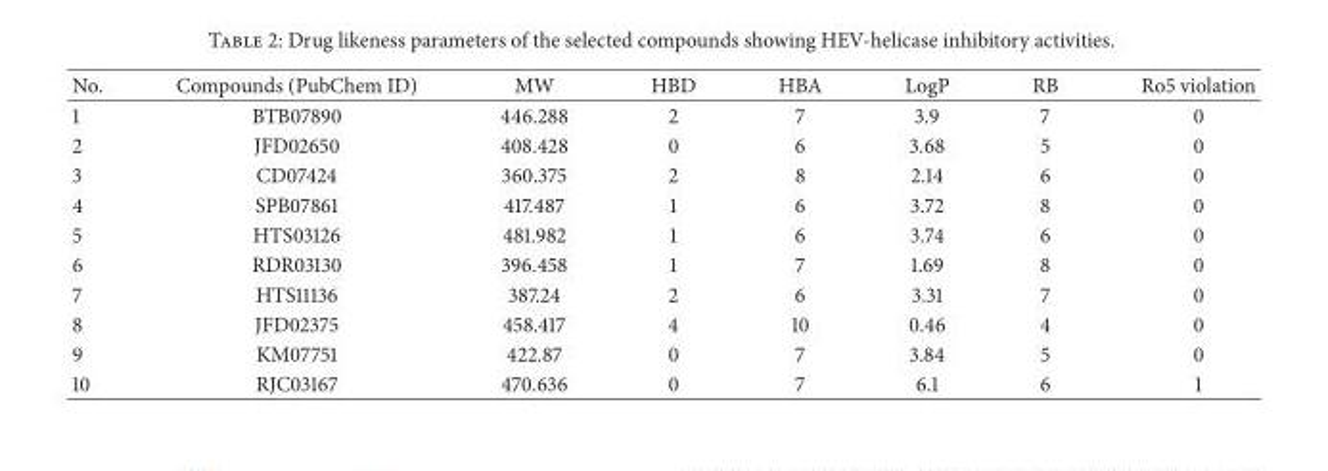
<table><thead><tr><td>No.</td><td>Compounds (PubChem ID)</td><td>MW</td><td>HBD</td><td>HBA</td><td>LogP</td><td>RB</td><td>Ro5 violation</td></tr></thead><tbody><tr><td>1</td><td>BTB07890</td><td>446.288</td><td>2</td><td>7</td><td>3.9</td><td>7</td><td>0</td></tr><tr><td>2</td><td>JFD02650</td><td>408.428</td><td>0</td><td>6</td><td>3.68</td><td>5</td><td>0</td></tr><tr><td>3</td><td>CD07424</td><td>360.375</td><td>2</td><td>8</td><td>2.14</td><td>6</td><td>0</td></tr><tr><td>4</td><td>SPB07861</td><td>417.487</td><td>1</td><td>6</td><td>3.72</td><td>8</td><td>0</td></tr><tr><td>5</td><td>HTS03126</td><td>481.982</td><td>1</td><td>6</td><td>3.74</td><td>6</td><td>0</td></tr><tr><td>6</td><td>RDR03130</td><td>396.458</td><td>1</td><td>7</td><td>1.69</td><td>8</td><td>0</td></tr><tr><td>7</td><td>HTS11136</td><td>387.24</td><td>2</td><td>6</td><td>3.31</td><td>7</td><td>0</td></tr><tr><td>8</td><td>JFD02375</td><td>458.417</td><td>4</td><td>10</td><td>0.46</td><td>4</td><td>0</td></tr><tr><td>9</td><td>KM07751</td><td>422.87</td><td>0</td><td>7</td><td>3.84</td><td>5</td><td>0</td></tr><tr><td>10</td><td>RJC03167</td><td>470.636</td><td>0</td><td>7</td><td>6.1</td><td>6</td><td>1</td></tr></tbody></table>